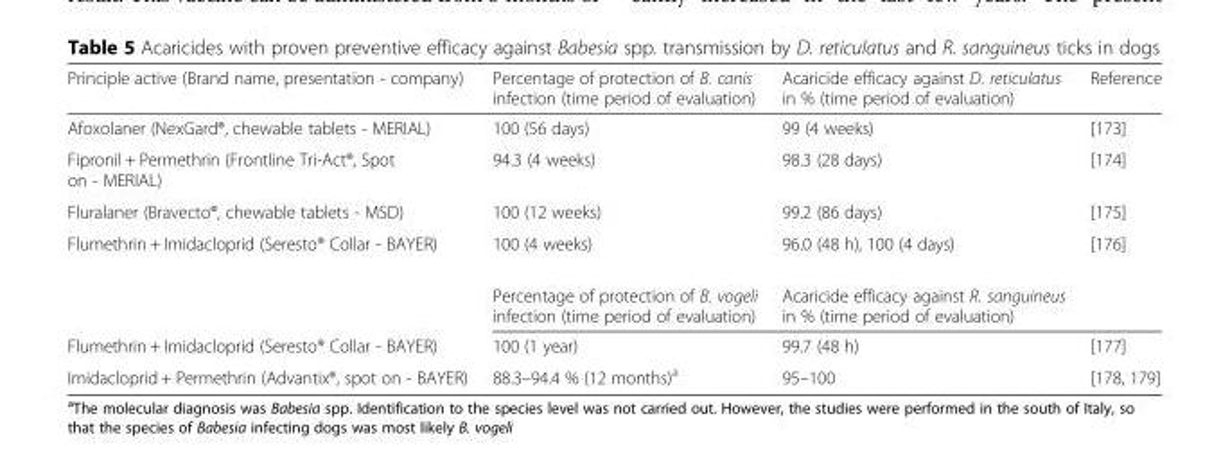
<table><thead><tr><td>Principle active (Brand name, presentation - company)</td><td>Percentage of protection of B. canis infection (time period of evaluation)</td><td>Acaricide efficacy against D. reticulatus in % (time period of evaluation)</td><td>Reference</td></tr></thead><tbody><tr><td>Afoxolaner (NexGard®, chewable tablets - MERIAL)</td><td>100 (56 days)</td><td>99 (4 weeks)</td><td>[173]</td></tr><tr><td>Fipronil + Permethrin (Frontline Tri-Act®, Spot on - MERIAL)</td><td>94.3 (4 weeks)</td><td>98.3 (28 days)</td><td>[174]</td></tr><tr><td>Fluralaner (Bravecto®, chewable tablets - MSD)</td><td>100 (12 weeks)</td><td>99.2 (86 days)</td><td>[175]</td></tr><tr><td rowspan="2">Flumethrin + Imidacloprid (Seresto® Collar - BAYER)</td><td>100 (4 weeks)</td><td>96.0 (48 h), 100 (4 days)</td><td>[176]</td></tr><tr><td>Percentage of protection of B. vogeli infection (time period of evaluation)</td><td>Acaricide efficacy against R. sanguineus in % (time period of evaluation)</td><td></td></tr><tr><td>Flumethrin + Imidacloprid (Seresto® Collar - BAYER)</td><td>100 (1 year)</td><td>99.7 (48 h)</td><td>[177]</td></tr><tr><td>Imidacloprid + Permethrin (Advantix®, spot on - BAYER)</td><td>88.3–94.4 % (12 months)<sup>a</sup></td><td>95–100</td><td>[178, 179]</td></tr></tbody></table>